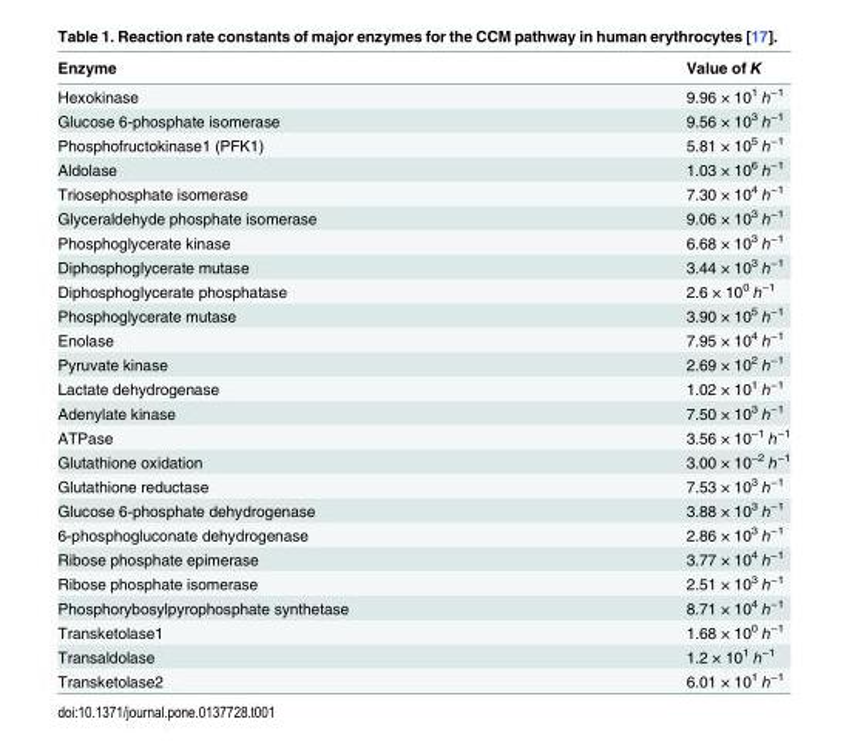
<table><thead><tr><td>Enzyme</td><td>Value of K</td></tr></thead><tbody><tr><td>Hexokinase</td><td>9.96 × 10<sup>1</sup> h<sup>−1</sup></td></tr><tr><td>Glucose 6-phosphate isomerase</td><td>9.56 × 10<sup>3</sup> h<sup>−1</sup></td></tr><tr><td>Phosphofructokinase1 (PFK1)</td><td>5.81 × 10<sup>5</sup> h<sup>−1</sup></td></tr><tr><td>Aldolase</td><td>1.03 × 10<sup>6</sup> h<sup>−1</sup></td></tr><tr><td>Triosephosphate isomerase</td><td>7.30 × 10<sup>4</sup> h<sup>−1</sup></td></tr><tr><td>Glyceraldehyde phosphate isomerase</td><td>9.06 × 10<sup>3</sup> h<sup>−1</sup></td></tr><tr><td>Phosphoglycerate kinase</td><td>6.68 × 10<sup>3</sup> h<sup>−1</sup></td></tr><tr><td>Diphosphoglycerate mutase</td><td>3.44 × 10<sup>3</sup> h<sup>−1</sup></td></tr><tr><td>Diphosphoglycerate phosphatase</td><td>2.6 × 10<sup>0</sup> h<sup>−1</sup></td></tr><tr><td>Phosphoglycerate mutase</td><td>3.90 × 10<sup>5</sup> h<sup>−1</sup></td></tr><tr><td>Enolase</td><td>7.95 × 10<sup>4</sup> h<sup>−1</sup></td></tr><tr><td>Pyruvate kinase</td><td>2.69 × 10<sup>2</sup> h<sup>−1</sup></td></tr><tr><td>Lactate dehydrogenase</td><td>1.02 × 10<sup>1</sup> h<sup>−1</sup></td></tr><tr><td>Adenylate kinase</td><td>7.50 × 10<sup>3</sup> h<sup>−1</sup></td></tr><tr><td>ATPase</td><td>3.56 × 10<sup>−1</sup> h<sup>−1</sup></td></tr><tr><td>Glutathione oxidation</td><td>3.00 × 10<sup>−2</sup> h<sup>−1</sup></td></tr><tr><td>Glutathione reductase</td><td>7.53 × 10<sup>3</sup> h<sup>−1</sup></td></tr><tr><td>Glucose 6-phosphate dehydrogenase</td><td>3.88 × 10<sup>3</sup> h<sup>−1</sup></td></tr><tr><td>6-phosphogluconate dehydrogenase</td><td>2.86 × 10<sup>3</sup> h<sup>−1</sup></td></tr><tr><td>Ribose phosphate epimerase</td><td>3.77 × 10<sup>4</sup> h<sup>−1</sup></td></tr><tr><td>Ribose phosphate isomerase</td><td>2.51 × 10<sup>3</sup> h<sup>−1</sup></td></tr><tr><td>Phosphorybosylpyrophosphate synthetase</td><td>8.71 × 10<sup>4</sup> h<sup>−1</sup></td></tr><tr><td>Transketolase1</td><td>1.68 × 10<sup>0</sup> h<sup>−1</sup></td></tr><tr><td>Transaldolase</td><td>1.2 × 10<sup>1</sup> h<sup>−1</sup></td></tr><tr><td>Transketolase2</td><td>6.01 × 10<sup>1</sup> h<sup>−1</sup></td></tr></tbody></table>